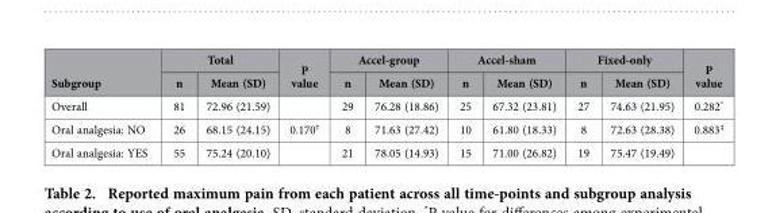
<table><thead><tr><td rowspan="2">Subgroup</td><td colspan="2">Total</td><td rowspan="2">P value</td><td colspan="2">Accel-group</td><td colspan="2">Accel-sham</td><td colspan="2">Fixed-only</td><td rowspan="2">P value</td></tr><tr><td>n</td><td>Mean (SD)</td><td>n</td><td>Mean (SD)</td><td>n</td><td>Mean (SD)</td><td>n</td><td>Mean (SD)</td></tr></thead><tbody><tr><td>Overall</td><td>81</td><td>72.96 (21.59)</td><td></td><td>29</td><td>76.28 (18.86)</td><td>25</td><td>67.32 (23.81)</td><td>27</td><td>74.63 (21.95)</td><td>0.282*</td></tr><tr><td>Oral analgesia: NO</td><td>26</td><td>68.15 (24.15)</td><td>0.170†</td><td>8</td><td>71.63 (27.42)</td><td>10</td><td>61.80 (18.33)</td><td>8</td><td>72.63 (28.38)</td><td>0.883‡</td></tr><tr><td>Oral analgesia: YES</td><td>55</td><td>75.24 (20.10)</td><td></td><td>21</td><td>78.05 (14.93)</td><td>15</td><td>71.00 (26.82)</td><td>19</td><td>75.47 (19.49)</td><td></td></tr></tbody></table>